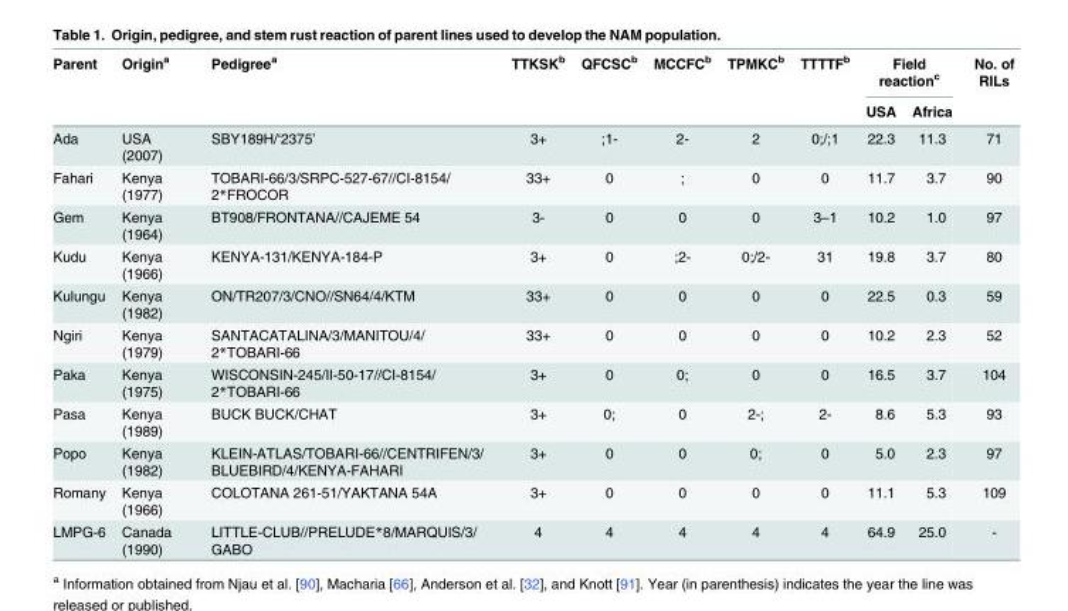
<table><thead><tr><td rowspan="2">Parent</td><td rowspan="2">Origin<sup>a</sup></td><td rowspan="2">Pedigree<sup>a</sup></td><td rowspan="2">TTKSK<sup>b</sup></td><td rowspan="2">QFCSC<sup>b</sup></td><td rowspan="2">MCCFC<sup>b</sup></td><td rowspan="2">TPMKC<sup>b</sup></td><td rowspan="2">TTTTF<sup>b</sup></td><td colspan="2">Field reaction<sup>c</sup></td><td rowspan="2">No. of RILs</td></tr><tr><td>USA</td><td>Africa</td></tr></thead><tbody><tr><td>Ada</td><td>USA (2007)</td><td>SBY189H/‘2375’</td><td>3+</td><td>;1-</td><td>2-</td><td>2</td><td>0;/;1</td><td>22.3</td><td>11.3</td><td>71</td></tr><tr><td>Fahari</td><td>Kenya (1977)</td><td>TOBARI-66/3/SRPC-527-67//CI-8154/ 2*FROCOR</td><td>33+</td><td>0</td><td>;</td><td>0</td><td>0</td><td>11.7</td><td>3.7</td><td>90</td></tr><tr><td>Gem</td><td>Kenya (1964)</td><td>BT908/FRONTANA//CAJEME 54</td><td>3-</td><td>0</td><td>0</td><td>0</td><td>3–1</td><td>10.2</td><td>1.0</td><td>97</td></tr><tr><td>Kudu</td><td>Kenya (1966)</td><td>KENYA-131/KENYA-184-P</td><td>3+</td><td>0</td><td>;2-</td><td>0;/2-</td><td>31</td><td>19.8</td><td>3.7</td><td>80</td></tr><tr><td>Kulungu</td><td>Kenya (1982)</td><td>ON/TR207/3/CNO//SN64/4/KTM</td><td>33+</td><td>0</td><td>0</td><td>0</td><td>0</td><td>22.5</td><td>0.3</td><td>59</td></tr><tr><td>Ngiri</td><td>Kenya (1979)</td><td>SANTACATALINA/3/MANITOU/4/ 2*TOBARI-66</td><td>33+</td><td>0</td><td>0</td><td>0</td><td>0</td><td>10.2</td><td>2.3</td><td>52</td></tr><tr><td>Paka</td><td>Kenya (1975)</td><td>WISCONSIN-245/II-50-17//CI-8154/ 2*TOBARI-66</td><td>3+</td><td>0</td><td>0;</td><td>0</td><td>0</td><td>16.5</td><td>3.7</td><td>104</td></tr><tr><td>Pasa</td><td>Kenya (1989)</td><td>BUCK BUCK/CHAT</td><td>3+</td><td>0;</td><td>0</td><td>2-;</td><td>2-</td><td>8.6</td><td>5.3</td><td>93</td></tr><tr><td>Popo</td><td>Kenya (1982)</td><td>KLEIN-ATLAS/TOBARI-66//CENTRIFEN/3/ BLUEBIRD/4/KENYA-FAHARI</td><td>3+</td><td>0</td><td>0</td><td>0;</td><td>0</td><td>5.0</td><td>2.3</td><td>97</td></tr><tr><td>Romany</td><td>Kenya (1966)</td><td>COLOTANA 261-51/YAKTANA 54A</td><td>3+</td><td>0</td><td>0</td><td>0</td><td>0</td><td>11.1</td><td>5.3</td><td>109</td></tr><tr><td>LMPG-6</td><td>Canada (1990)</td><td>LITTLE-CLUB//PRELUDE*8/MARQUIS/3/ GABO</td><td>4</td><td>4</td><td>4</td><td>4</td><td>4</td><td>64.9</td><td>25.0</td><td>-</td></tr></tbody></table>